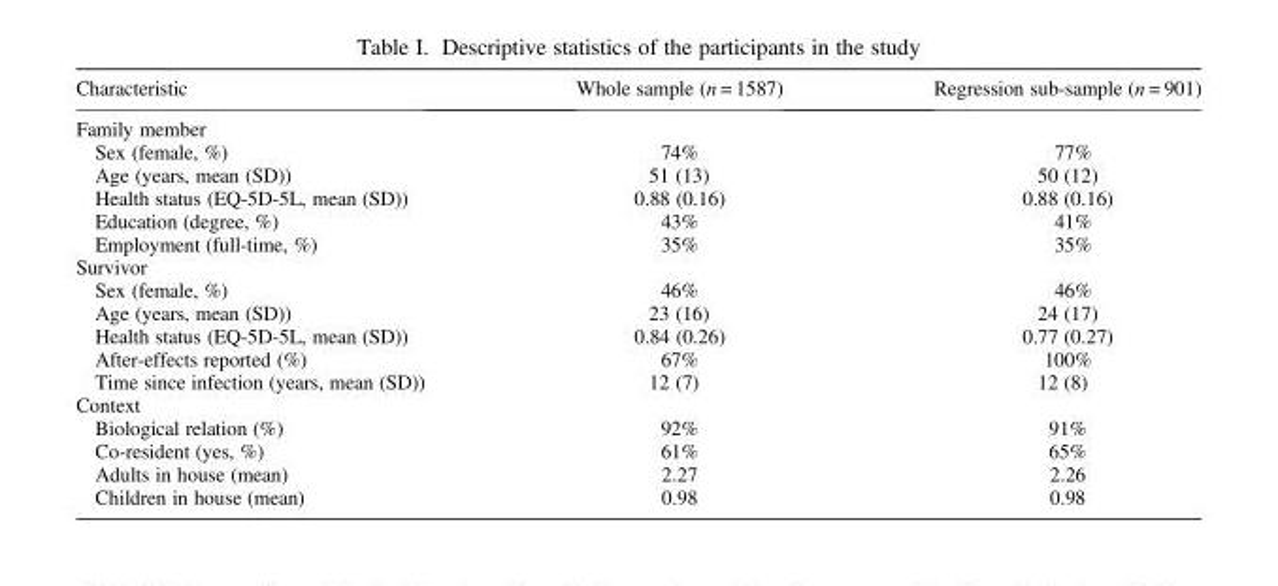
<table><thead><tr><td>Characteristic</td><td>Whole sample (n = 1587)</td><td>Regression sub-sample (n = 901)</td></tr></thead><tbody><tr><td colspan="3">Family member</td></tr><tr><td>Sex (female, %)</td><td>74%</td><td>77%</td></tr><tr><td>Age (years, mean (SD))</td><td>51 (13)</td><td>50 (12)</td></tr><tr><td>Health status (EQ-5D-5L, mean (SD))</td><td>0.88 (0.16)</td><td>0.88 (0.16)</td></tr><tr><td>Education (degree, %)</td><td>43%</td><td>41%</td></tr><tr><td>Employment (full-time, %)</td><td>35%</td><td>35%</td></tr><tr><td colspan="3">Survivor</td></tr><tr><td>Sex (female, %)</td><td>46%</td><td>46%</td></tr><tr><td>Age (years, mean (SD))</td><td>23 (16)</td><td>24 (17)</td></tr><tr><td>Health status (EQ-5D-5L, mean (SD))</td><td>0.84 (0.26)</td><td>0.77 (0.27)</td></tr><tr><td>After-effects reported (%)</td><td>67%</td><td>100%</td></tr><tr><td>Time since infection (years, mean (SD))</td><td>12 (7)</td><td>12 (8)</td></tr><tr><td colspan="3">Context</td></tr><tr><td>Biological relation (%)</td><td>92%</td><td>91%</td></tr><tr><td>Co-resident (yes, %)</td><td>61%</td><td>65%</td></tr><tr><td>Adults in house (mean)</td><td>2.27</td><td>2.26</td></tr><tr><td>Children in house (mean)</td><td>0.98</td><td>0.98</td></tr></tbody></table>